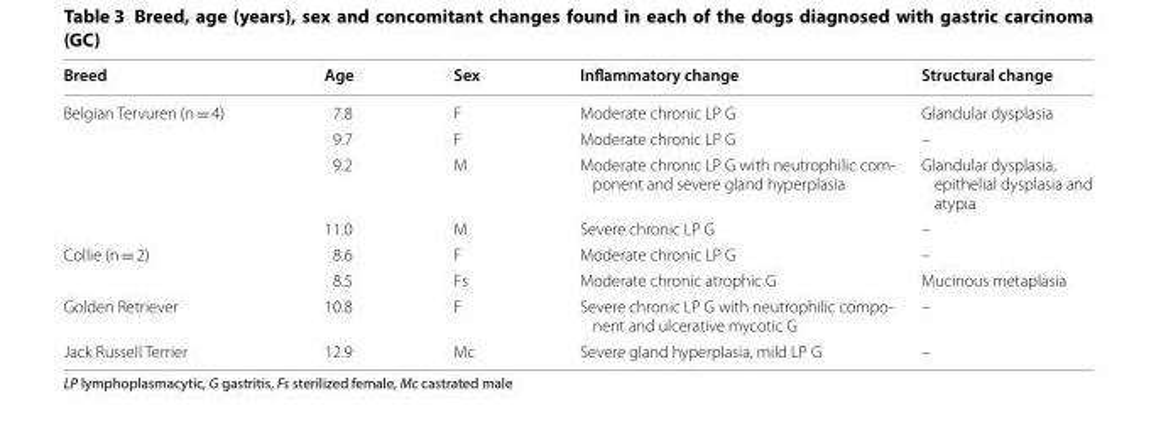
<table><thead><tr><td>Breed</td><td>Age</td><td>Sex</td><td>Inflammatory change</td><td>Structural change</td></tr></thead><tbody><tr><td rowspan="4">Belgian Tervuren (n = 4)</td><td>7.8</td><td>F</td><td>Moderate chronic LP G</td><td>Glandular dysplasia</td></tr><tr><td>9.7</td><td>F</td><td>Moderate chronic LP G</td><td>–</td></tr><tr><td>9.2</td><td>M</td><td>Moderate chronic LP G with neutrophilic com- ponent and severe gland hyperplasia</td><td>Glandular dysplasia, epithelial dysplasia and atypia</td></tr><tr><td>11.0</td><td>M</td><td>Severe chronic LP G</td><td>–</td></tr><tr><td rowspan="2">Collie (n = 2)</td><td>8.6</td><td>F</td><td>Moderate chronic LP G</td><td>–</td></tr><tr><td>8.5</td><td>Fs</td><td>Moderate chronic atrophic G</td><td>Mucinous metaplasia</td></tr><tr><td>Golden Retriever</td><td>10.8</td><td>F</td><td>Severe chronic LP G with neutrophilic compo- nent and ulcerative mycotic G</td><td>–</td></tr><tr><td>Jack Russell Terrier</td><td>12.9</td><td>Mc</td><td>Severe gland hyperplasia, mild LP G</td><td>–</td></tr></tbody></table>